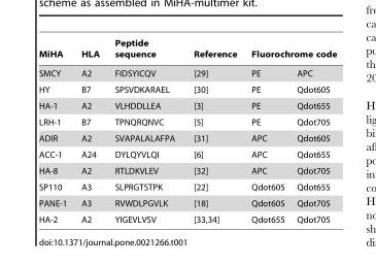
<table><thead><tr><td rowspan="2">MiHA SMCY</td><td rowspan="2">HLA A2</td><td rowspan="2">Peptide sequence FIDSYICQV</td><td rowspan="2">Reference [29]</td><td colspan="2">Fluorochrome code</td></tr><tr><td>PE</td><td>APC</td></tr></thead><tbody><tr><td>HY</td><td>B7</td><td>SPSVDKARAEL</td><td>[30]</td><td>PE</td><td>Qdot605</td></tr><tr><td>HA-1</td><td>A2</td><td>VLHDDLLEA</td><td>[3]</td><td>PE</td><td>Qdot655</td></tr><tr><td>LRH-1</td><td>B7</td><td>TPNQRQNVC</td><td>[5]</td><td>PE</td><td>Qdot705</td></tr><tr><td>ADIR</td><td>A2</td><td>SVAPALALAFPA</td><td>[31]</td><td>APC</td><td>Qdot605</td></tr><tr><td>ACC-1</td><td>A24</td><td>DYLQYVLQI</td><td>[6]</td><td>APC</td><td>Qdot655</td></tr><tr><td>HA-8</td><td>A2</td><td>RTLDKVLEV</td><td>[32]</td><td>APC</td><td>Qdot705</td></tr><tr><td>SP110</td><td>A3</td><td>SLPRGTSTPK</td><td>[22]</td><td>Qdot605</td><td>Qdot655</td></tr><tr><td>PANE-1</td><td>A3</td><td>RVWDLPGVLK</td><td>[18]</td><td>Qdot605</td><td>Qdot705</td></tr><tr><td>HA-2</td><td>A2</td><td>YIGEVLVSV</td><td>[33,34]</td><td>Qdot655</td><td>Qdot705</td></tr></tbody></table>